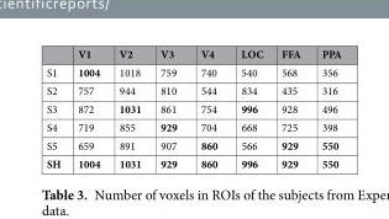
<table><thead><tr><td></td><td>V1</td><td>V2</td><td>V3</td><td>V4</td><td>LOC</td><td>FFA</td><td>PPA</td></tr></thead><tbody><tr><td>S1</td><td>1004</td><td>1018</td><td>759</td><td>740</td><td>540</td><td>568</td><td>356</td></tr><tr><td>S2</td><td>757</td><td>944</td><td>810</td><td>544</td><td>834</td><td>435</td><td>316</td></tr><tr><td>S3</td><td>872</td><td>1031</td><td>861</td><td>754</td><td>996</td><td>928</td><td>496</td></tr><tr><td>S4</td><td>719</td><td>855</td><td>929</td><td>704</td><td>668</td><td>725</td><td>398</td></tr><tr><td>S5</td><td>659</td><td>891</td><td>907</td><td>860</td><td>566</td><td>929</td><td>550</td></tr><tr><td>SH</td><td>1004</td><td>1031</td><td>929</td><td>860</td><td>996</td><td>929</td><td>550</td></tr></tbody></table>